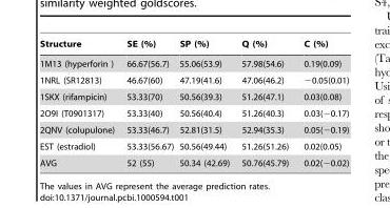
<table><thead><tr><td>Structure</td><td>SE (%)</td><td>SP (%)</td><td>Q (%)</td><td>C (%)</td></tr></thead><tbody><tr><td>1M13 (hyperforin )</td><td>66.67(56.7)</td><td>55.06(53.9)</td><td>57.98(54.6)</td><td>0.19(0.09)</td></tr><tr><td>1NRL (SR12813)</td><td>46.67(60)</td><td>47.19(41.6)</td><td>47.06(46.2)</td><td>−0.05(0.01)</td></tr><tr><td>1SKX (rifampicin)</td><td>53.33(70)</td><td>50.56(39.3)</td><td>51.26(47.1)</td><td>0.03(0.08)</td></tr><tr><td>2O9I (T0901317)</td><td>53.33(40)</td><td>50.56(40.4)</td><td>51.26(40.3)</td><td>0.03(−0.17)</td></tr><tr><td>2QNV (colupulone)</td><td>53.33(46.7)</td><td>52.81(31.5)</td><td>52.94(35.3)</td><td>0.05(−0.19)</td></tr><tr><td>EST (estradiol)</td><td>53.33(56.67)</td><td>50.56(49.44)</td><td>51.26(51.26)</td><td>0.02(0.05)</td></tr><tr><td>AVG</td><td>52 (55)</td><td>50.34 (42.69)</td><td>50.76(45.79)</td><td>0.02(−0.02)</td></tr></tbody></table>